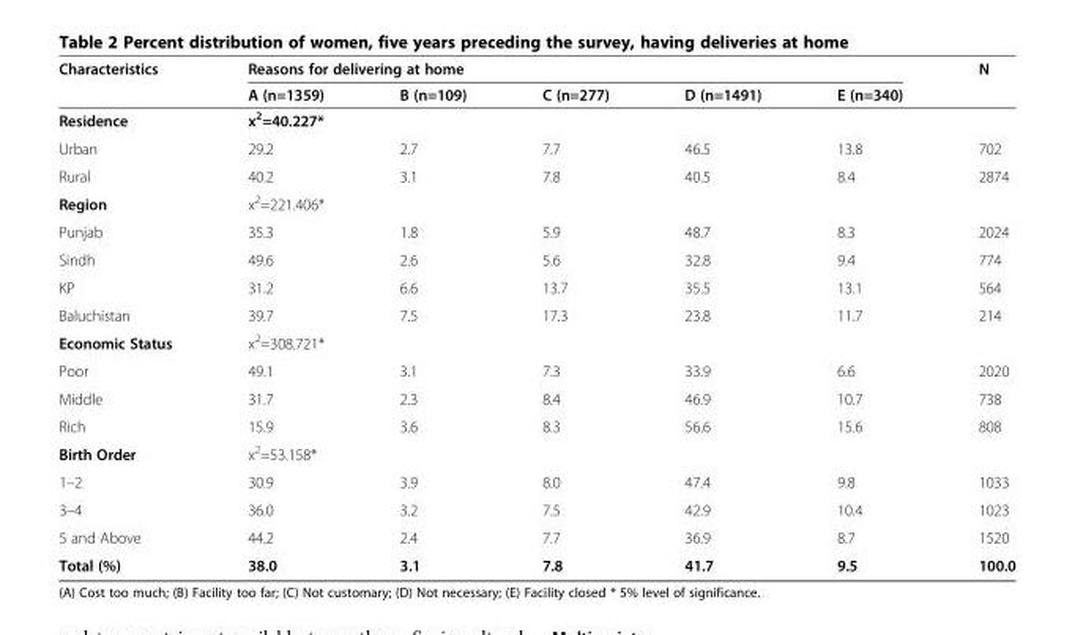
<table><thead><tr><td rowspan="2">Characteristics</td><td colspan="5">Reasons for delivering at home</td><td rowspan="2">N</td></tr><tr><td>A (n=1359)</td><td>B (n=109)</td><td>C (n=277)</td><td>D (n=1491)</td><td>E (n=340)</td></tr></thead><tbody><tr><td>Residence</td><td>x<sup>2</sup>=40.227*</td><td></td><td></td><td></td><td></td><td></td></tr><tr><td>Urban</td><td>29.2</td><td>2.7</td><td>7.7</td><td>46.5</td><td>13.8</td><td>702</td></tr><tr><td>Rural</td><td>40.2</td><td>3.1</td><td>7.8</td><td>40.5</td><td>8.4</td><td>2874</td></tr><tr><td>Region</td><td>x<sup>2</sup>=221.406*</td><td></td><td></td><td></td><td></td><td></td></tr><tr><td>Punjab</td><td>35.3</td><td>1.8</td><td>5.9</td><td>48.7</td><td>8.3</td><td>2024</td></tr><tr><td>Sindh</td><td>49.6</td><td>2.6</td><td>5.6</td><td>32.8</td><td>9.4</td><td>774</td></tr><tr><td>KP</td><td>31.2</td><td>6.6</td><td>13.7</td><td>35.5</td><td>13.1</td><td>564</td></tr><tr><td>Baluchistan</td><td>39.7</td><td>7.5</td><td>17.3</td><td>23.8</td><td>11.7</td><td>214</td></tr><tr><td>Economic Status</td><td>x<sup>2</sup>=308.721*</td><td></td><td></td><td></td><td></td><td></td></tr><tr><td>Poor</td><td>49.1</td><td>3.1</td><td>7.3</td><td>33.9</td><td>6.6</td><td>2020</td></tr><tr><td>Middle</td><td>31.7</td><td>2.3</td><td>8.4</td><td>46.9</td><td>10.7</td><td>738</td></tr><tr><td>Rich</td><td>15.9</td><td>3.6</td><td>8.3</td><td>56.6</td><td>15.6</td><td>808</td></tr><tr><td>Birth Order</td><td>x<sup>2</sup>=53.158*</td><td></td><td></td><td></td><td></td><td></td></tr><tr><td>1–2</td><td>30.9</td><td>3.9</td><td>8.0</td><td>47.4</td><td>9.8</td><td>1033</td></tr><tr><td>3–4</td><td>36.0</td><td>3.2</td><td>7.5</td><td>42.9</td><td>10.4</td><td>1023</td></tr><tr><td>5 and Above</td><td>44.2</td><td>2.4</td><td>7.7</td><td>36.9</td><td>8.7</td><td>1520</td></tr><tr><td>Total (%)</td><td>38.0</td><td>3.1</td><td>7.8</td><td>41.7</td><td>9.5</td><td>100.0</td></tr></tbody></table>